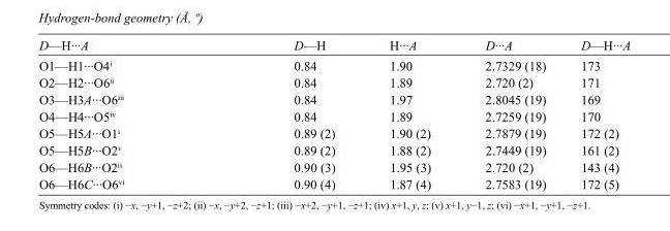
<table><tbody><tr><td>D—H···A</td><td>D—H</td><td>H···A</td><td>D···A</td><td>D—H···A</td></tr><tr><td>O1—H1···O4<sup>i</sup></td><td>0.84</td><td>1.90</td><td>2.7329 (18)</td><td>173</td></tr><tr><td>O2—H2···O6<sup>ii</sup></td><td>0.84</td><td>1.89</td><td>2.720 (2)</td><td>171</td></tr><tr><td>O3—H3A···O6<sup>iii</sup></td><td>0.84</td><td>1.97</td><td>2.8045 (19)</td><td>169</td></tr><tr><td>O4—H4···O5<sup>iv</sup></td><td>0.84</td><td>1.89</td><td>2.7259 (19)</td><td>170</td></tr><tr><td>O5—H5A···O1<sup>i</sup></td><td>0.89 (2)</td><td>1.90 (2)</td><td>2.7879 (19)</td><td>172 (2)</td></tr><tr><td>O5—H5B···O2<sup>v</sup></td><td>0.89 (2)</td><td>1.88 (2)</td><td>2.7449 (19)</td><td>161 (2)</td></tr><tr><td>O6—H6B···O2<sup>ii</sup></td><td>0.90 (3)</td><td>1.95 (3)</td><td>2.720 (2)</td><td>143 (4)</td></tr><tr><td>O6—H6C···O6<sup>vi</sup></td><td>0.90 (4)</td><td>1.87 (4)</td><td>2.7583 (19)</td><td>172 (5)</td></tr></tbody></table>